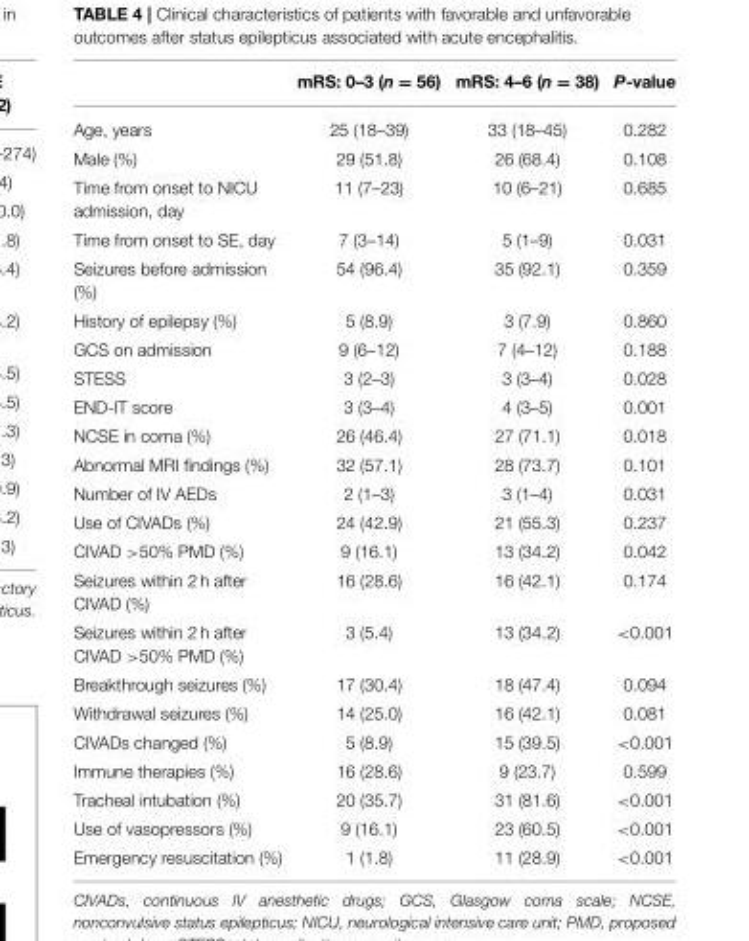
<table><thead><tr><td></td><td>mRS: 0–3 (n = 56)</td><td>mRS: 4–6 (n = 38)</td><td>P-value</td></tr></thead><tbody><tr><td>Age, years</td><td>25 (18–39)</td><td>33 (18–45)</td><td>0.282</td></tr><tr><td>Male (%)</td><td>29 (51.8)</td><td>26 (68.4)</td><td>0.108</td></tr><tr><td>Time from onset to NICU admission, day</td><td>11 (7–23)</td><td>10 (6–21)</td><td>0.685</td></tr><tr><td>Time from onset to SE, day</td><td>7 (3–14)</td><td>5 (1–9)</td><td>0.031</td></tr><tr><td>Seizures before admission (%)</td><td>54 (96.4)</td><td>35 (92.1)</td><td>0.359</td></tr><tr><td>History of epilepsy (%)</td><td>5 (8.9)</td><td>3 (7.9)</td><td>0.860</td></tr><tr><td>GCS on admission</td><td>9 (6–12)</td><td>7 (4–12)</td><td>0.188</td></tr><tr><td>STESS</td><td>3 (2–3)</td><td>3 (3–4)</td><td>0.028</td></tr><tr><td>END-IT score</td><td>3 (3–4)</td><td>4 (3–5)</td><td>0.001</td></tr><tr><td>NCSE in coma (%)</td><td>26 (46.4)</td><td>27 (71.1)</td><td>0.018</td></tr><tr><td>Abnormal MRI findings (%)</td><td>32 (57.1)</td><td>28 (73.7)</td><td>0.101</td></tr><tr><td>Number of IV AEDs</td><td>2 (1–3)</td><td>3 (1–4)</td><td>0.031</td></tr><tr><td>Use of CIVADs (%)</td><td>24 (42.9)</td><td>21 (55.3)</td><td>0.237</td></tr><tr><td>CIVAD &gt;50% PMD (%)</td><td>9 (16.1)</td><td>13 (34.2)</td><td>0.042</td></tr><tr><td>Seizures within 2 h after CIVAD (%)</td><td>16 (28.6)</td><td>16 (42.1)</td><td>0.174</td></tr><tr><td>Seizures within 2 h after CIVAD &gt;50% PMD (%)</td><td>3 (5.4)</td><td>13 (34.2)</td><td>&lt;0.001</td></tr><tr><td>Breakthrough seizures (%)</td><td>17 (30.4)</td><td>18 (47.4)</td><td>0.094</td></tr><tr><td>Withdrawal seizures (%)</td><td>14 (25.0)</td><td>16 (42.1)</td><td>0.081</td></tr><tr><td>CIVADs changed (%)</td><td>5 (8.9)</td><td>15 (39.5)</td><td>&lt;0.001</td></tr><tr><td>Immune therapies (%)</td><td>16 (28.6)</td><td>9 (23.7)</td><td>0.599</td></tr><tr><td>Tracheal intubation (%)</td><td>20 (35.7)</td><td>31 (81.6)</td><td>&lt;0.001</td></tr><tr><td>Use of vasopressors (%)</td><td>9 (16.1)</td><td>23 (60.5)</td><td>&lt;0.001</td></tr><tr><td>Emergency resuscitation (%)</td><td>1 (1.8)</td><td>11 (28.9)</td><td>&lt;0.001</td></tr></tbody></table>